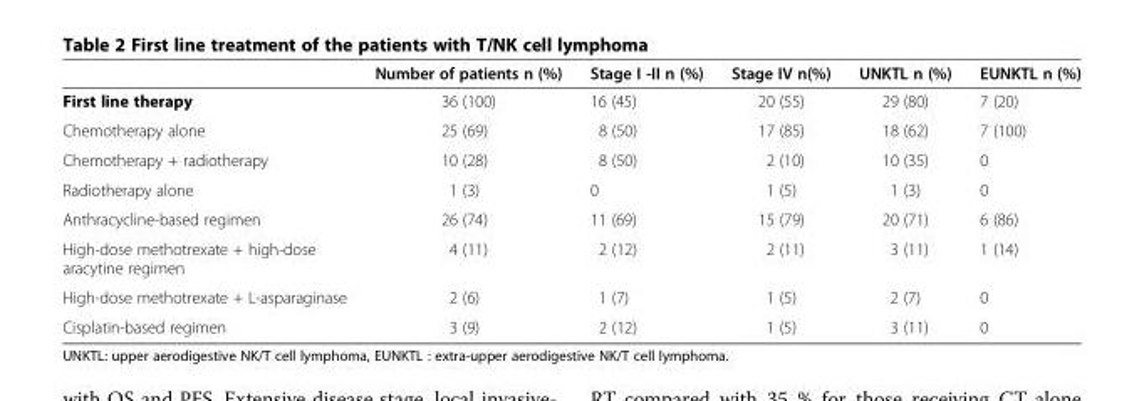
<table><thead><tr><td></td><td>Number of patients n (%)</td><td>Stage I -II n (%)</td><td>Stage IV n(%)</td><td>UNKTL n (%)</td><td>EUNKTL n (%)</td></tr></thead><tbody><tr><td>First line therapy</td><td>36 (100)</td><td>16 (45)</td><td>20 (55)</td><td>29 (80)</td><td>7 (20)</td></tr><tr><td>Chemotherapy alone</td><td>25 (69)</td><td>8 (50)</td><td>17 (85)</td><td>18 (62)</td><td>7 (100)</td></tr><tr><td>Chemotherapy + radiotherapy</td><td>10 (28)</td><td>8 (50)</td><td>2 (10)</td><td>10 (35)</td><td>0</td></tr><tr><td>Radiotherapy alone</td><td>1 (3)</td><td>0</td><td>1 (5)</td><td>1 (3)</td><td>0</td></tr><tr><td>Anthracycline-based regimen</td><td>26 (74)</td><td>11 (69)</td><td>15 (79)</td><td>20 (71)</td><td>6 (86)</td></tr><tr><td>High-dose methotrexate + high-dose aracytine regimen</td><td>4 (11)</td><td>2 (12)</td><td>2 (11)</td><td>3 (11)</td><td>1 (14)</td></tr><tr><td>High-dose methotrexate + L-asparaginase</td><td>2 (6)</td><td>1 (7)</td><td>1 (5)</td><td>2 (7)</td><td>0</td></tr><tr><td>Cisplatin-based regimen</td><td>3 (9)</td><td>2 (12)</td><td>1 (5)</td><td>3 (11)</td><td>0</td></tr></tbody></table>